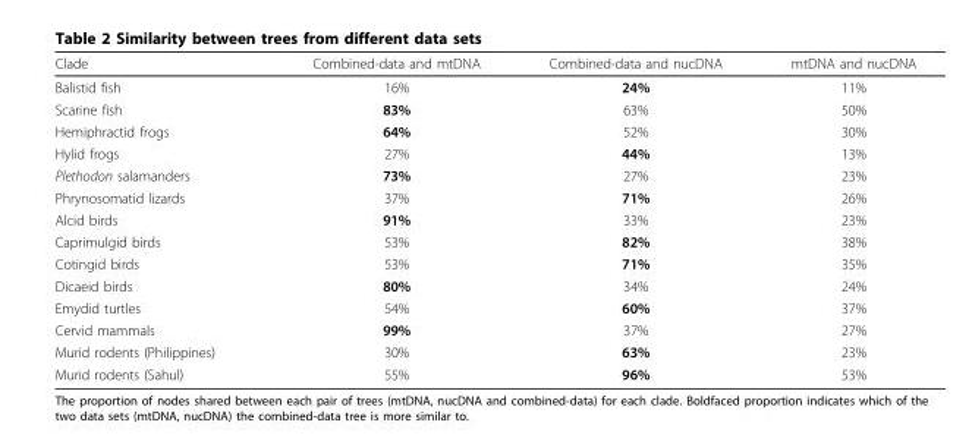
<table><thead><tr><td>Clade</td><td>Combined-data and mtDNA</td><td>Combined-data and nucDNA</td><td>mtDNA and nucDNA</td></tr></thead><tbody><tr><td>Balistid fish</td><td>16%</td><td>24%</td><td>11%</td></tr><tr><td>Scarine fish</td><td>83%</td><td>63%</td><td>50%</td></tr><tr><td>Hemiphractid frogs</td><td>64%</td><td>52%</td><td>30%</td></tr><tr><td>Hylid frogs</td><td>27%</td><td>44%</td><td>13%</td></tr><tr><td>Plethodon salamanders</td><td>73%</td><td>27%</td><td>23%</td></tr><tr><td>Phrynosomatid lizards</td><td>37%</td><td>71%</td><td>26%</td></tr><tr><td>Alcid birds</td><td>91%</td><td>33%</td><td>23%</td></tr><tr><td>Caprimulgid birds</td><td>53%</td><td>82%</td><td>38%</td></tr><tr><td>Cotingid birds</td><td>53%</td><td>71%</td><td>35%</td></tr><tr><td>Dicaeid birds</td><td>80%</td><td>34%</td><td>24%</td></tr><tr><td>Emydid turtles</td><td>54%</td><td>60%</td><td>37%</td></tr><tr><td>Cervid mammals</td><td>99%</td><td>37%</td><td>27%</td></tr><tr><td>Murid rodents (Philippines)</td><td>30%</td><td>63%</td><td>23%</td></tr><tr><td>Murid rodents (Sahul)</td><td>55%</td><td>96%</td><td>53%</td></tr></tbody></table>